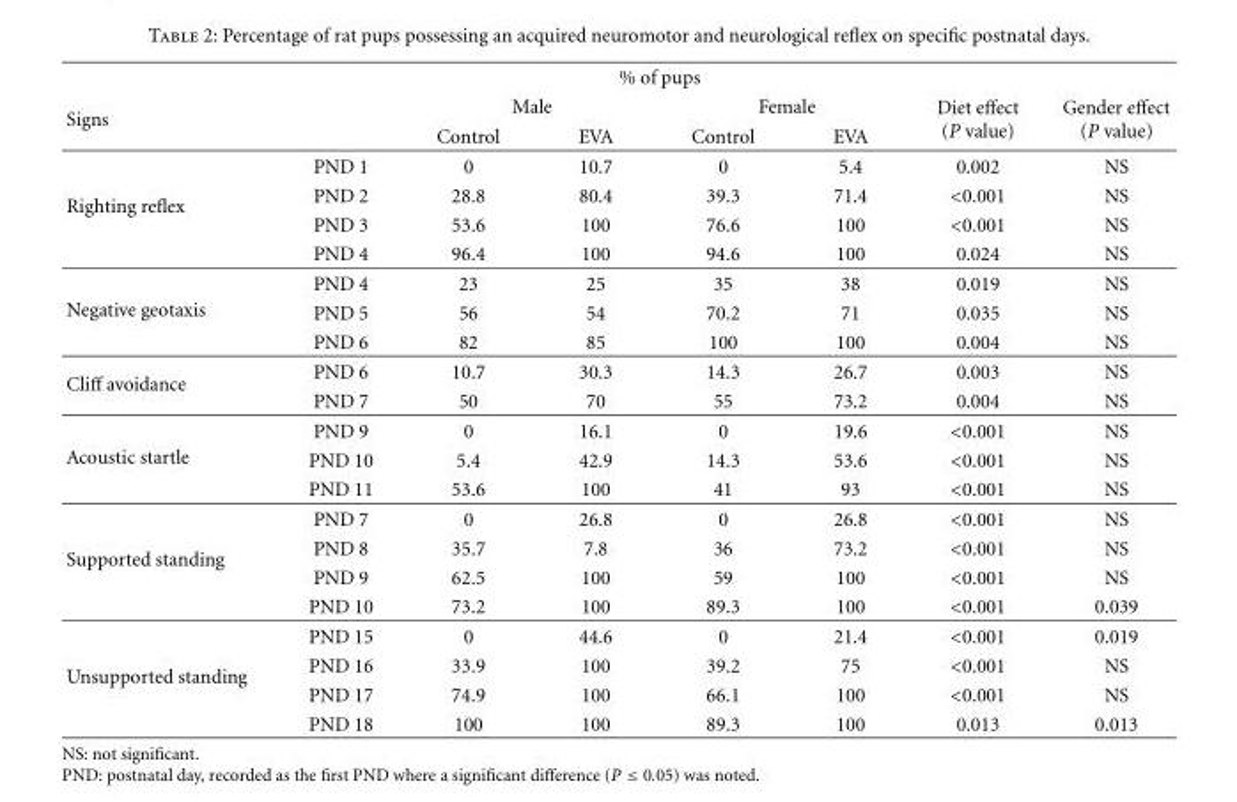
<table><thead><tr><td rowspan="3">Signs</td><td rowspan="3"></td><td colspan="4">% of pups</td><td rowspan="3">Diet effect (P value)</td><td rowspan="3">Gender effect (P value)</td></tr><tr><td colspan="2">Male</td><td colspan="2">Female</td></tr><tr><td>Control</td><td>EVA</td><td>Control</td><td>EVA</td></tr></thead><tbody><tr><td rowspan="4">Righting reflex</td><td>PND 1</td><td>0</td><td>10.7</td><td>0</td><td>5.4</td><td>0.002</td><td>NS</td></tr><tr><td>PND 2</td><td>28.8</td><td>80.4</td><td>39.3</td><td>71.4</td><td>&lt;0.001</td><td>NS</td></tr><tr><td>PND 3</td><td>53.6</td><td>100</td><td>76.6</td><td>100</td><td>&lt;0.001</td><td>NS</td></tr><tr><td>PND 4</td><td>96.4</td><td>100</td><td>94.6</td><td>100</td><td>0.024</td><td>NS</td></tr><tr><td rowspan="3">Negative geotaxis</td><td>PND 4</td><td>23</td><td>25</td><td>35</td><td>38</td><td>0.019</td><td>NS</td></tr><tr><td>PND 5</td><td>56</td><td>54</td><td>70.2</td><td>71</td><td>0.035</td><td>NS</td></tr><tr><td>PND 6</td><td>82</td><td>85</td><td>100</td><td>100</td><td>0.004</td><td>NS</td></tr><tr><td rowspan="2">Cliff avoidance</td><td>PND 6</td><td>10.7</td><td>30.3</td><td>14.3</td><td>26.7</td><td>0.003</td><td>NS</td></tr><tr><td>PND 7</td><td>50</td><td>70</td><td>55</td><td>73.2</td><td>0.004</td><td>NS</td></tr><tr><td rowspan="3">Acoustic startle</td><td>PND 9</td><td>0</td><td>16.1</td><td>0</td><td>19.6</td><td>&lt;0.001</td><td>NS</td></tr><tr><td>PND 10</td><td>5.4</td><td>42.9</td><td>14.3</td><td>53.6</td><td>&lt;0.001</td><td>NS</td></tr><tr><td>PND 11</td><td>53.6</td><td>100</td><td>41</td><td>93</td><td>&lt;0.001</td><td>NS</td></tr><tr><td rowspan="4">Supported standing</td><td>PND 7</td><td>0</td><td>26.8</td><td>0</td><td>26.8</td><td>&lt;0.001</td><td>NS</td></tr><tr><td>PND 8</td><td>35.7</td><td>7.8</td><td>36</td><td>73.2</td><td>&lt;0.001</td><td>NS</td></tr><tr><td>PND 9</td><td>62.5</td><td>100</td><td>59</td><td>100</td><td>&lt;0.001</td><td>NS</td></tr><tr><td>PND 10</td><td>73.2</td><td>100</td><td>89.3</td><td>100</td><td>&lt;0.001</td><td>0.039</td></tr><tr><td rowspan="4">Unsupported standing</td><td>PND 15</td><td>0</td><td>44.6</td><td>0</td><td>21.4</td><td>&lt;0.001</td><td>0.019</td></tr><tr><td>PND 16</td><td>33.9</td><td>100</td><td>39.2</td><td>75</td><td>&lt;0.001</td><td>NS</td></tr><tr><td>PND 17</td><td>74.9</td><td>100</td><td>66.1</td><td>100</td><td>&lt;0.001</td><td>NS</td></tr><tr><td>PND 18</td><td>100</td><td>100</td><td>89.3</td><td>100</td><td>0.013</td><td>0.013</td></tr></tbody></table>